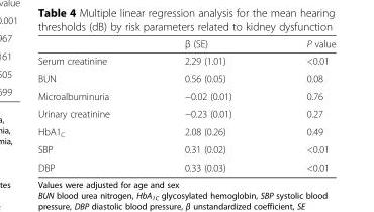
<table><thead><tr><td></td><td>β (SE)</td><td>P value</td></tr></thead><tbody><tr><td>Serum creatinine</td><td>2.29 (1.01)</td><td>&lt;0.01</td></tr><tr><td>BUN</td><td>0.56 (0.05)</td><td>0.08</td></tr><tr><td>Microalbuminuria</td><td>−0.02 (0.01)</td><td>0.76</td></tr><tr><td>Urinary creatinine</td><td>−0.23 (0.01)</td><td>0.27</td></tr><tr><td>HbA1<sub>C</sub></td><td>2.08 (0.26)</td><td>0.49</td></tr><tr><td>SBP</td><td>0.31 (0.02)</td><td>&lt;0.01</td></tr><tr><td>DBP</td><td>0.33 (0.03)</td><td>&lt;0.01</td></tr></tbody></table>